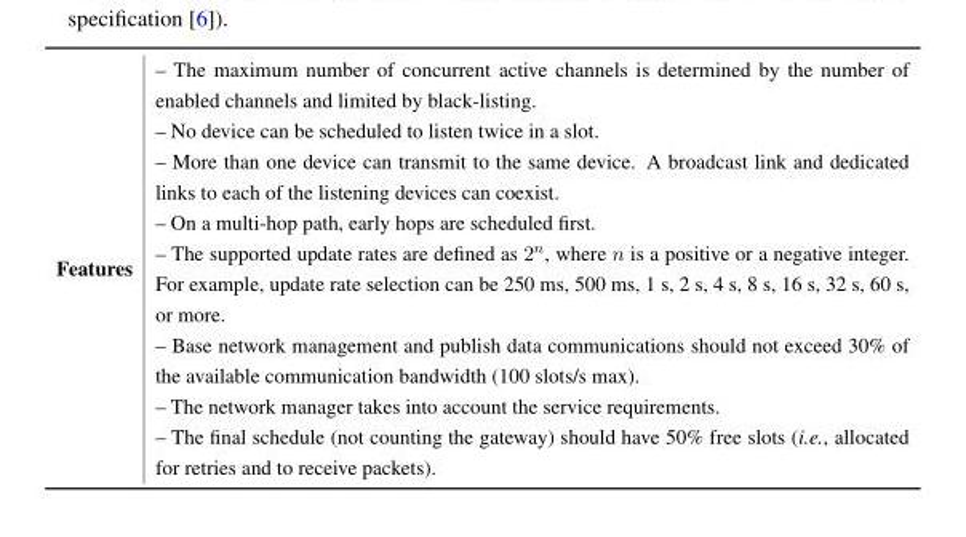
<table><tbody><tr><td>Features</td><td>– The maximum number of concurrent active channels is determined by the number of enabled channels and limited by black-listing. – No device can be scheduled to listen twice in a slot. – More than one device can transmit to the same device. A broadcast link and dedicated links to each of the listening devices can coexist. – On a multi-hop path, early hops are scheduled first. – The supported update rates are defined as 2<sup>n</sup>, where n is a positive or a negative integer. For example, update rate selection can be 250 ms, 500 ms, 1 s, 2 s, 4 s, 8 s, 16 s, 32 s, 60 s, or more. – Base network management and publish data communications should not exceed 30% of the available communication bandwidth (100 slots/s max). – The network manager takes into account the service requirements. – The final schedule (not counting the gateway) should have 50% free slots (i.e., allocated for retries and to receive packets).</td></tr></tbody></table>